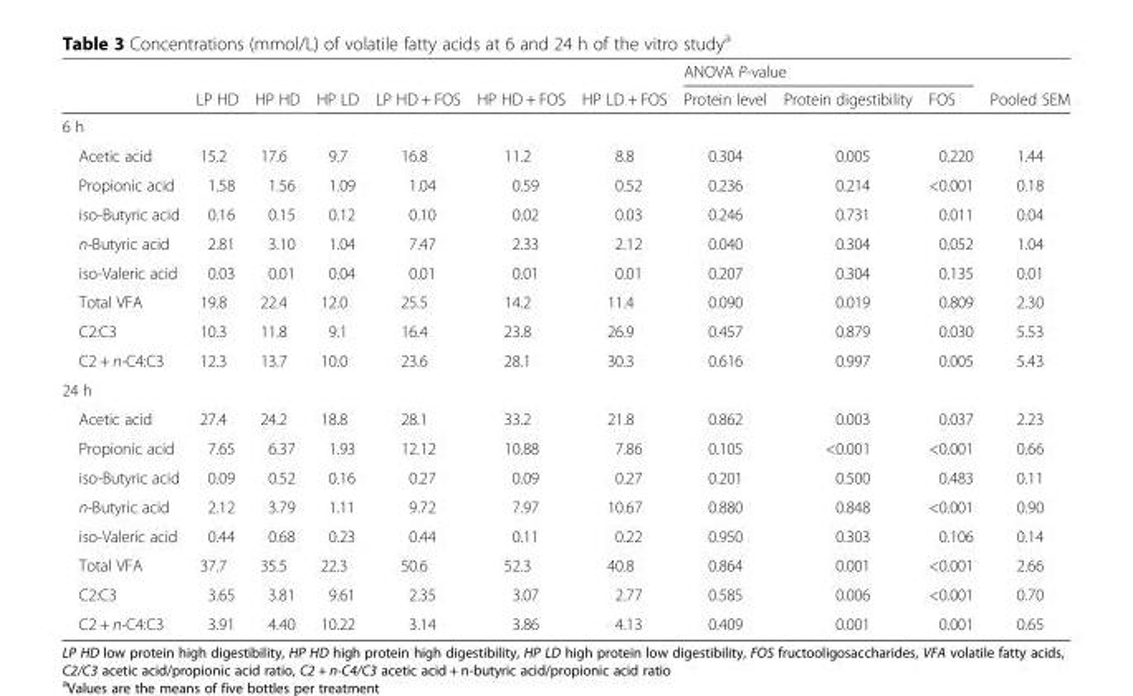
<table><thead><tr><td rowspan="2"></td><td rowspan="2">LP HD</td><td rowspan="2">HP HD</td><td rowspan="2">HP LD</td><td rowspan="2">LP HD + FOS</td><td rowspan="2">HP HD + FOS</td><td rowspan="2">HP LD + FOS</td><td colspan="3">ANOVA P-value</td><td rowspan="2">Pooled SEM</td></tr><tr><td>Protein level</td><td>Protein digestibility</td><td>FOS</td></tr></thead><tbody><tr><td colspan="11">6 h</td></tr><tr><td>Acetic acid</td><td>15.2</td><td>17.6</td><td>9.7</td><td>16.8</td><td>11.2</td><td>8.8</td><td>0.304</td><td>0.005</td><td>0.220</td><td>1.44</td></tr><tr><td>Propionic acid</td><td>1.58</td><td>1.56</td><td>1.09</td><td>1.04</td><td>0.59</td><td>0.52</td><td>0.236</td><td>0.214</td><td>&lt;0.001</td><td>0.18</td></tr><tr><td>iso-Butyric acid</td><td>0.16</td><td>0.15</td><td>0.12</td><td>0.10</td><td>0.02</td><td>0.03</td><td>0.246</td><td>0.731</td><td>0.011</td><td>0.04</td></tr><tr><td>n-Butyric acid</td><td>2.81</td><td>3.10</td><td>1.04</td><td>7.47</td><td>2.33</td><td>2.12</td><td>0.040</td><td>0.304</td><td>0.052</td><td>1.04</td></tr><tr><td>iso-Valeric acid</td><td>0.03</td><td>0.01</td><td>0.04</td><td>0.01</td><td>0.01</td><td>0.01</td><td>0.207</td><td>0.304</td><td>0.135</td><td>0.01</td></tr><tr><td>Total VFA</td><td>19.8</td><td>22.4</td><td>12.0</td><td>25.5</td><td>14.2</td><td>11.4</td><td>0.090</td><td>0.019</td><td>0.809</td><td>2.30</td></tr><tr><td>C2:C3</td><td>10.3</td><td>11.8</td><td>9.1</td><td>16.4</td><td>23.8</td><td>26.9</td><td>0.457</td><td>0.879</td><td>0.030</td><td>5.53</td></tr><tr><td>C2 + n-C4:C3</td><td>12.3</td><td>13.7</td><td>10.0</td><td>23.6</td><td>28.1</td><td>30.3</td><td>0.616</td><td>0.997</td><td>0.005</td><td>5.43</td></tr><tr><td colspan="11">24 h</td></tr><tr><td>Acetic acid</td><td>27.4</td><td>24.2</td><td>18.8</td><td>28.1</td><td>33.2</td><td>21.8</td><td>0.862</td><td>0.003</td><td>0.037</td><td>2.23</td></tr><tr><td>Propionic acid</td><td>7.65</td><td>6.37</td><td>1.93</td><td>12.12</td><td>10.88</td><td>7.86</td><td>0.105</td><td>&lt;0.001</td><td>&lt;0.001</td><td>0.66</td></tr><tr><td>iso-Butyric acid</td><td>0.09</td><td>0.52</td><td>0.16</td><td>0.27</td><td>0.09</td><td>0.27</td><td>0.201</td><td>0.500</td><td>0.483</td><td>0.11</td></tr><tr><td>n-Butyric acid</td><td>2.12</td><td>3.79</td><td>1.11</td><td>9.72</td><td>7.97</td><td>10.67</td><td>0.880</td><td>0.848</td><td>&lt;0.001</td><td>0.90</td></tr><tr><td>iso-Valeric acid</td><td>0.44</td><td>0.68</td><td>0.23</td><td>0.44</td><td>0.11</td><td>0.22</td><td>0.950</td><td>0.303</td><td>0.106</td><td>0.14</td></tr><tr><td>Total VFA</td><td>37.7</td><td>35.5</td><td>22.3</td><td>50.6</td><td>52.3</td><td>40.8</td><td>0.864</td><td>0.001</td><td>&lt;0.001</td><td>2.66</td></tr><tr><td>C2:C3</td><td>3.65</td><td>3.81</td><td>9.61</td><td>2.35</td><td>3.07</td><td>2.77</td><td>0.585</td><td>0.006</td><td>&lt;0.001</td><td>0.70</td></tr><tr><td>C2 + n-C4:C3</td><td>3.91</td><td>4.40</td><td>10.22</td><td>3.14</td><td>3.86</td><td>4.13</td><td>0.409</td><td>0.001</td><td>0.001</td><td>0.65</td></tr></tbody></table>